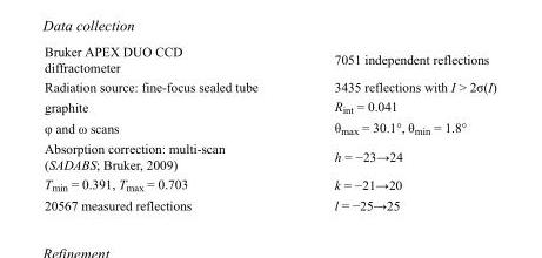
<table><tbody><tr><td>Bruker APEX DUO CCD diffractometer</td><td>7051 independent reflections</td></tr><tr><td>Radiation source: fine-focus sealed tube</td><td>3435 reflections with I &gt; 2σ(I)</td></tr><tr><td>graphite</td><td>R<sub>int</sub> = 0.041</td></tr><tr><td>φ and ω scans</td><td>θ<sub>max</sub> = 30.1°, θ<sub>min</sub> = 1.8°</td></tr><tr><td>Absorption correction: multi-scan (SADABS; Bruker, 2009)</td><td>h = −23→24</td></tr><tr><td>T<sub>min</sub> = 0.391, T<sub>max</sub> = 0.703</td><td>k = −21→20</td></tr><tr><td>20567 measured reflections</td><td>l = −25→25</td></tr></tbody></table>